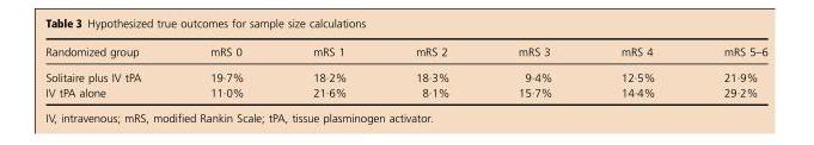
<table><thead><tr><td>Randomized group</td><td>mRS 0</td><td>mRS 1</td><td>mRS 2</td><td>mRS 3</td><td>mRS 4</td><td>mRS 5–6</td></tr></thead><tbody><tr><td>Solitaire plus IV tPA</td><td>19·7%</td><td>18·2%</td><td>18·3%</td><td>9·4%</td><td>12·5%</td><td>21·9%</td></tr><tr><td>IV tPA alone</td><td>11·0%</td><td>21·6%</td><td>8·1%</td><td>15·7%</td><td>14·4%</td><td>29·2%</td></tr></tbody></table>